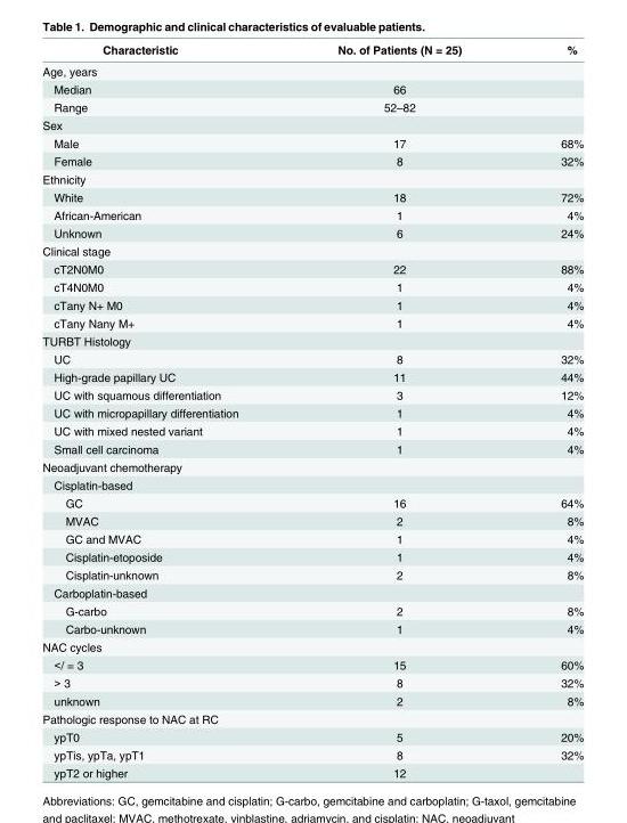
<table><thead><tr><td>Characteristic</td><td>No. of Patients (N = 25)</td><td>%</td></tr></thead><tbody><tr><td colspan="3">Age, years</td></tr><tr><td>Median</td><td>66</td><td></td></tr><tr><td>Range</td><td>52–82</td><td></td></tr><tr><td colspan="3">Sex</td></tr><tr><td>Male</td><td>17</td><td>68%</td></tr><tr><td>Female</td><td>8</td><td>32%</td></tr><tr><td colspan="3">Ethnicity</td></tr><tr><td>White</td><td>18</td><td>72%</td></tr><tr><td>African-American</td><td>1</td><td>4%</td></tr><tr><td>Unknown</td><td>6</td><td>24%</td></tr><tr><td colspan="3">Clinical stage</td></tr><tr><td>cT2N0M0</td><td>22</td><td>88%</td></tr><tr><td>cT4N0M0</td><td>1</td><td>4%</td></tr><tr><td>cTany N+ M0</td><td>1</td><td>4%</td></tr><tr><td>cTany Nany M+</td><td>1</td><td>4%</td></tr><tr><td colspan="3">TURBT Histology</td></tr><tr><td>UC</td><td>8</td><td>32%</td></tr><tr><td>High-grade papillary UC</td><td>11</td><td>44%</td></tr><tr><td>UC with squamous differentiation</td><td>3</td><td>12%</td></tr><tr><td>UC with micropapillary differentiation</td><td>1</td><td>4%</td></tr><tr><td>UC with mixed nested variant</td><td>1</td><td>4%</td></tr><tr><td>Small cell carcinoma</td><td>1</td><td>4%</td></tr><tr><td colspan="3">Neoadjuvant chemotherapy</td></tr><tr><td colspan="3">Cisplatin-based</td></tr><tr><td>GC</td><td>16</td><td>64%</td></tr><tr><td>MVAC</td><td>2</td><td>8%</td></tr><tr><td>GC and MVAC</td><td>1</td><td>4%</td></tr><tr><td>Cisplatin-etoposide</td><td>1</td><td>4%</td></tr><tr><td>Cisplatin-unknown</td><td>2</td><td>8%</td></tr><tr><td colspan="3">Carboplatin-based</td></tr><tr><td>G-carbo</td><td>2</td><td>8%</td></tr><tr><td>Carbo-unknown</td><td>1</td><td>4%</td></tr><tr><td colspan="3">NAC cycles</td></tr><tr><td>&lt;/ = 3</td><td>15</td><td>60%</td></tr><tr><td>&gt; 3</td><td>8</td><td>32%</td></tr><tr><td>unknown</td><td>2</td><td>8%</td></tr><tr><td colspan="3">Pathologic response to NAC at RC</td></tr><tr><td>ypT0</td><td>5</td><td>20%</td></tr><tr><td>ypTis, ypTa, ypT1</td><td>8</td><td>32%</td></tr><tr><td>ypT2 or higher</td><td>12</td><td></td></tr></tbody></table>